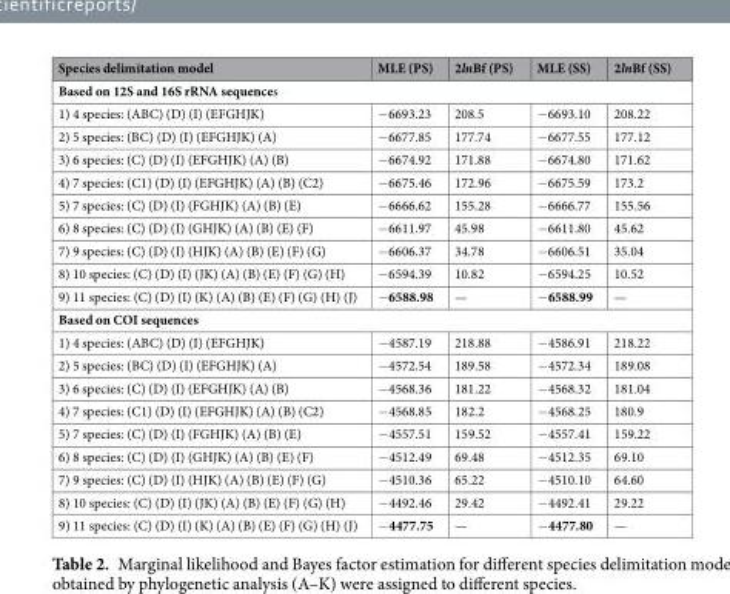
<table><thead><tr><td>Species delimitation model</td><td>MLE (PS)</td><td>2lnBf (PS)</td><td>MLE (SS)</td><td>2lnBf (SS)</td></tr></thead><tbody><tr><td colspan="5">Based on 12S and 16S rRNA sequences</td></tr><tr><td>1) 4 species: (ABC) (D) (I) (EFGHJK)</td><td>−6693.23</td><td>208.5</td><td>−6693.10</td><td>208.22</td></tr><tr><td>2) 5 species: (BC) (D) (I) (EFGHJK) (A)</td><td>−6677.85</td><td>177.74</td><td>−6677.55</td><td>177.12</td></tr><tr><td>3) 6 species: (C) (D) (I) (EFGHJK) (A) (B)</td><td>−6674.92</td><td>171.88</td><td>−6674.80</td><td>171.62</td></tr><tr><td>4) 7 species: (C1) (D) (I) (EFGHJK) (A) (B) (C2)</td><td>−6675.46</td><td>172.96</td><td>−6675.59</td><td>173.2</td></tr><tr><td>5) 7 species: (C) (D) (I) (FGHJK) (A) (B) (E)</td><td>−6666.62</td><td>155.28</td><td>−6666.77</td><td>155.56</td></tr><tr><td>6) 8 species: (C) (D) (I) (GHJK) (A) (B) (E) (F)</td><td>−6611.97</td><td>45.98</td><td>−6611.80</td><td>45.62</td></tr><tr><td>7) 9 species: (C) (D) (I) (HJK) (A) (B) (E) (F) (G)</td><td>−6606.37</td><td>34.78</td><td>−6606.51</td><td>35.04</td></tr><tr><td>8) 10 species: (C) (D) (I) (JK) (A) (B) (E) (F) (G) (H)</td><td>−6594.39</td><td>10.82</td><td>−6594.25</td><td>10.52</td></tr><tr><td>9) 11 species: (C) (D) (I) (K) (A) (B) (E) (F) (G) (H) (J)</td><td>−6588.98</td><td>—</td><td>−6588.99</td><td>—</td></tr><tr><td colspan="5">Based on COI sequences</td></tr><tr><td>1) 4 species: (ABC) (D) (I) (EFGHJK)</td><td>−4587.19</td><td>218.88</td><td>−4586.91</td><td>218.22</td></tr><tr><td>2) 5 species: (BC) (D) (I) (EFGHJK) (A)</td><td>−4572.54</td><td>189.58</td><td>−4572.34</td><td>189.08</td></tr><tr><td>3) 6 species: (C) (D) (I) (EFGHJK) (A) (B)</td><td>−4568.36</td><td>181.22</td><td>−4568.32</td><td>181.04</td></tr><tr><td>4) 7 species: (C1) (D) (I) (EFGHJK) (A) (B) (C2)</td><td>−4568.85</td><td>182.2</td><td>−4568.25</td><td>180.9</td></tr><tr><td>5) 7 species: (C) (D) (I) (FGHJK) (A) (B) (E)</td><td>−4557.51</td><td>159.52</td><td>−4557.41</td><td>159.22</td></tr><tr><td>6) 8 species: (C) (D) (I) (GHJK) (A) (B) (E) (F)</td><td>−4512.49</td><td>69.48</td><td>−4512.35</td><td>69.10</td></tr><tr><td>7) 9 species: (C) (D) (I) (HJK) (A) (B) (E) (F) (G)</td><td>−4510.36</td><td>65.22</td><td>−4510.10</td><td>64.60</td></tr><tr><td>8) 10 species: (C) (D) (I) (JK) (A) (B) (E) (F) (G) (H)</td><td>−4492.46</td><td>29.42</td><td>−4492.41</td><td>29.22</td></tr><tr><td>9) 11 species: (C) (D) (I) (K) (A) (B) (E) (F) (G) (H) (J)</td><td>−4477.75</td><td>—</td><td>−4477.80</td><td>—</td></tr></tbody></table>